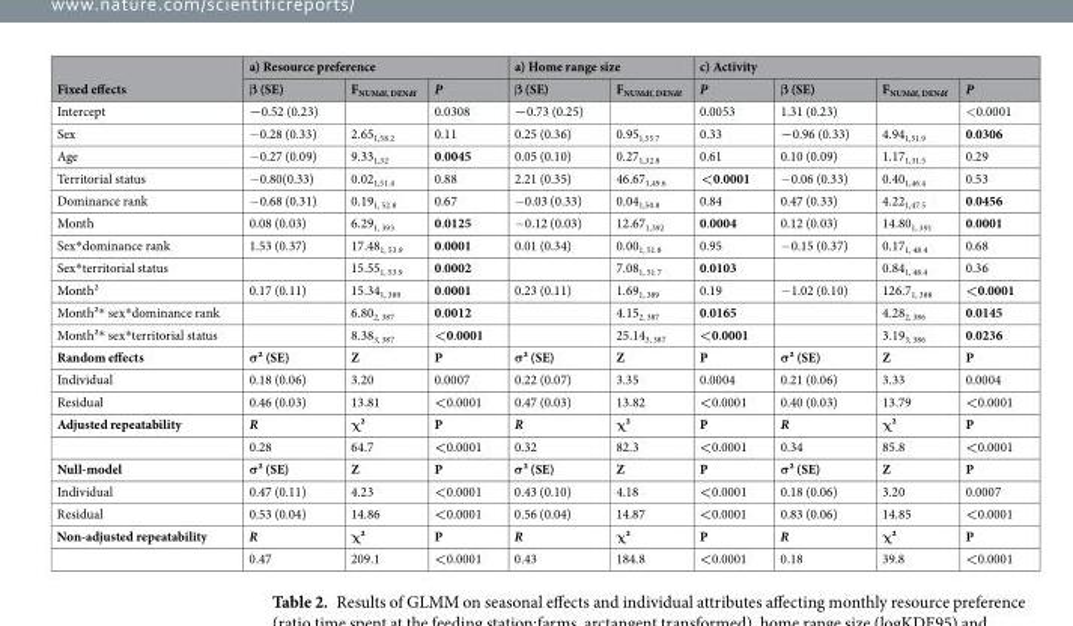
<table><thead><tr><td rowspan="2">Fixed effects</td><td colspan="3">a) Resource preference</td><td colspan="2">a) Home range size</td><td colspan="4">c) Activity</td></tr><tr><td>β (SE)</td><td>F<sub>NUMdf, DENdf</sub></td><td>P</td><td>β (SE)</td><td>F<sub>NUMdf, DENdf</sub></td><td>P</td><td>β (SE)</td><td>F<sub>NUMdf, DENdf</sub></td><td>P</td></tr></thead><tbody><tr><td>Intercept</td><td>−0.52 (0.23)</td><td></td><td>0.0308</td><td>−0.73 (0.25)</td><td></td><td>0.0053</td><td>1.31 (0.23)</td><td></td><td>&lt;0.0001</td></tr><tr><td>Sex</td><td>−0.28 (0.33)</td><td>2.65<sub>1,58.2</sub></td><td>0.11</td><td>0.25 (0.36)</td><td>0.95<sub>1,55.7</sub></td><td>0.33</td><td>−0.96 (0.33)</td><td>4.94<sub>1,51.9</sub></td><td>0.0306</td></tr><tr><td>Age</td><td>−0.27 (0.09)</td><td>9.33<sub>1,32</sub></td><td>0.0045</td><td>0.05 (0.10)</td><td>0.27<sub>1,32.8</sub></td><td>0.61</td><td>0.10 (0.09)</td><td>1.17<sub>1,31.5</sub></td><td>0.29</td></tr><tr><td>Territorial status</td><td>−0.80(0.33)</td><td>0.02<sub>1,51.4</sub></td><td>0.88</td><td>2.21 (0.35)</td><td>46.67<sub>1,49.6</sub></td><td>&lt;0.0001</td><td>−0.06 (0.33)</td><td>0.40<sub>1,46.4</sub></td><td>0.53</td></tr><tr><td>Dominance rank</td><td>−0.68 (0.31)</td><td>0.19<sub>1, 52.8</sub></td><td>0.67</td><td>−0.03 (0.33)</td><td>0.04<sub>1,50.8</sub></td><td>0.84</td><td>0.47 (0.33)</td><td>4.22<sub>1,47.5</sub></td><td>0.0456</td></tr><tr><td>Month</td><td>0.08 (0.03)</td><td>6.29<sub>1, 393</sub></td><td>0.0125</td><td>−0.12 (0.03)</td><td>12.67<sub>1,392</sub></td><td>0.0004</td><td>0.12 (0.03)</td><td>14.80<sub>1, 391</sub></td><td>0.0001</td></tr><tr><td>Sex*dominance rank</td><td>1.53 (0.37)</td><td>17.48<sub>1, 53.9</sub></td><td>0.0001</td><td>0.01 (0.34)</td><td>0.00<sub>1, 51.8</sub></td><td>0.95</td><td>−0.15 (0.37)</td><td>0.17<sub>1, 48.4</sub></td><td>0.68</td></tr><tr><td>Sex*territorial status</td><td></td><td>15.55<sub>1, 53.9</sub></td><td>0.0002</td><td></td><td>7.08<sub>1, 51.7</sub></td><td>0.0103</td><td></td><td>0.84<sub>1, 48.4</sub></td><td>0.36</td></tr><tr><td>Month²</td><td>0.17 (0.11)</td><td>15.34<sub>1, 389</sub></td><td>0.0001</td><td>0.23 (0.11)</td><td>1.69<sub>1, 389</sub></td><td>0.19</td><td>−1.02 (0.10)</td><td>126.7<sub>1, 388</sub></td><td>&lt;0.0001</td></tr><tr><td>Month²* sex*dominance rank</td><td></td><td>6.80<sub>2, 387</sub></td><td>0.0012</td><td></td><td>4.15<sub>2, 387</sub></td><td>0.0165</td><td></td><td>4.28<sub>2, 386</sub></td><td>0.0145</td></tr><tr><td>Month²* sex*territorial status</td><td></td><td>8.38<sub>3, 387</sub></td><td>&lt;0.0001</td><td></td><td>25.14<sub>3, 387</sub></td><td>&lt;0.0001</td><td></td><td>3.19<sub>3, 386</sub></td><td>0.0236</td></tr><tr><td>Random effects</td><td>σ² (SE)</td><td>Z</td><td>P</td><td>σ² (SE)</td><td>Z</td><td>P</td><td>σ² (SE)</td><td>Z</td><td>P</td></tr><tr><td>Individual</td><td>0.18 (0.06)</td><td>3.20</td><td>0.0007</td><td>0.22 (0.07)</td><td>3.35</td><td>0.0004</td><td>0.21 (0.06)</td><td>3.33</td><td>0.0004</td></tr><tr><td>Residual</td><td>0.46 (0.03)</td><td>13.81</td><td>&lt;0.0001</td><td>0.47 (0.03)</td><td>13.82</td><td>&lt;0.0001</td><td>0.40 (0.03)</td><td>13.79</td><td>&lt;0.0001</td></tr><tr><td rowspan="2">Adjusted repeatability</td><td>R</td><td>χ²</td><td>P</td><td>R</td><td>χ²</td><td>P</td><td>R</td><td>χ²</td><td>P</td></tr><tr><td>0.28</td><td>64.7</td><td>&lt;0.0001</td><td>0.32</td><td>82.3</td><td>&lt;0.0001</td><td>0.34</td><td>85.8</td><td>&lt;0.0001</td></tr><tr><td>Null-model</td><td>σ² (SE)</td><td>Z</td><td>P</td><td>σ² (SE)</td><td>Z</td><td>P</td><td>σ² (SE)</td><td>Z</td><td>P</td></tr><tr><td>Individual</td><td>0.47 (0.11)</td><td>4.23</td><td>&lt;0.0001</td><td>0.43 (0.10)</td><td>4.18</td><td>&lt;0.0001</td><td>0.18 (0.06)</td><td>3.20</td><td>0.0007</td></tr><tr><td>Residual</td><td>0.53 (0.04)</td><td>14.86</td><td>&lt;0.0001</td><td>0.56 (0.04)</td><td>14.87</td><td>&lt;0.0001</td><td>0.83 (0.06)</td><td>14.85</td><td>&lt;0.0001</td></tr><tr><td rowspan="2">Non-adjusted repeatability</td><td>R</td><td>χ²</td><td>P</td><td>R</td><td>χ²</td><td>P</td><td>R</td><td>χ²</td><td>P</td></tr><tr><td>0.47</td><td>209.1</td><td>&lt;0.0001</td><td>0.43</td><td>184.8</td><td>&lt;0.0001</td><td>0.18</td><td>39.8</td><td>&lt;0.0001</td></tr></tbody></table>